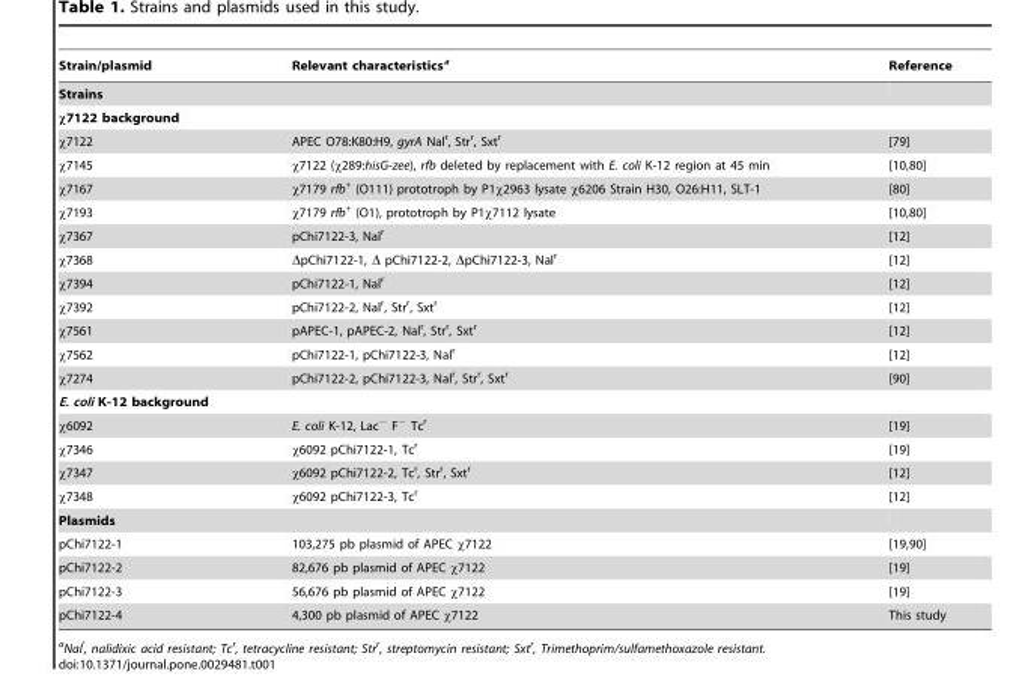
<table><thead><tr><td>Strain/plasmid</td><td>Relevant characteristics<sup>a</sup></td><td>Reference</td></tr></thead><tbody><tr><td colspan="3">Strains</td></tr><tr><td colspan="3">χ7122 background</td></tr><tr><td>χ7122</td><td>APEC O78:K80:H9, gyrA Nalr, Strr, Sxtr</td><td>[79]</td></tr><tr><td>χ7145</td><td>χ7122 (χ289:hisG-zee), rfb deleted by replacement with E. coli K-12 region at 45 min</td><td>[10,80]</td></tr><tr><td>χ7167</td><td>χ7179 rfb+ (O111) prototroph by P1χ2963 lysate χ6206 Strain H30, O26:H11, SLT-1</td><td>[80]</td></tr><tr><td>χ7193</td><td>χ7179 rfb<sup>+</sup> (O1), prototroph by P1χ7112 lysate</td><td>[10,80]</td></tr><tr><td>χ7367</td><td>pChi7122-3, Nal<sup>r</sup></td><td>[12]</td></tr><tr><td>χ7368</td><td>ΔpChi7122-1, Δ pChi7122-2, ΔpChi7122-3, Nal<sup>r</sup></td><td>[12]</td></tr><tr><td>χ7394</td><td>pChi7122-1, Nal<sup>r</sup></td><td>[12]</td></tr><tr><td>χ7392</td><td>pChi7122-2, Nal<sup>r</sup>, Str<sup>r</sup>, Sxt<sup>r</sup></td><td>[12]</td></tr><tr><td>χ7561</td><td>pAPEC-1, pAPEC-2, Nal<sup>r</sup>, Str<sup>r</sup>, Sxt<sup>r</sup></td><td>[12]</td></tr><tr><td>χ7562</td><td>pChi7122-1, pChi7122-3, Nal<sup>r</sup></td><td>[12]</td></tr><tr><td>χ7274</td><td>pChi7122-2, pChi7122-3, Nal<sup>r</sup>, Str<sup>r</sup>, Sxt<sup>r</sup></td><td>[90]</td></tr><tr><td colspan="3">E. coli K-12 background</td></tr><tr><td>χ6092</td><td>E. coli K-12, Lac<sup>−</sup> F<sup>−</sup> Tc<sup>r</sup></td><td>[19]</td></tr><tr><td>χ7346</td><td>χ6092 pChi7122-1, Tc<sup>r</sup></td><td>[19]</td></tr><tr><td>χ7347</td><td>χ6092 pChi7122-2, Tc<sup>r</sup>, Str<sup>r</sup>, Sxt<sup>r</sup></td><td>[12]</td></tr><tr><td>χ7348</td><td>χ6092 pChi7122-3, Tc<sup>r</sup></td><td>[12]</td></tr><tr><td colspan="3">Plasmids</td></tr><tr><td>pChi7122-1</td><td>103,275 pb plasmid of APEC χ7122</td><td>[19,90]</td></tr><tr><td>pChi7122-2</td><td>82,676 pb plasmid of APEC χ7122</td><td>[19]</td></tr><tr><td>pChi7122-3</td><td>56,676 pb plasmid of APEC χ7122</td><td>[19]</td></tr><tr><td>pChi7122-4</td><td>4,300 pb plasmid of APEC χ7122</td><td>This study</td></tr></tbody></table>